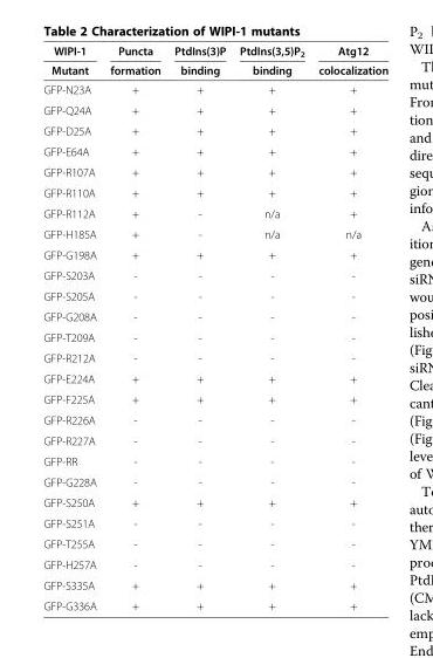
<table><thead><tr><td rowspan="2">WIPI-1 Mutant</td><td rowspan="2">Puncta formation</td><td rowspan="2">PtdIns(3)P binding</td><td rowspan="2">PtdIns(3,5)P<sub>2</sub> binding</td><td rowspan="2">Atg12 colocalization</td></tr><tr></tr></thead><tbody><tr><td>GFP-N23A</td><td>+</td><td>+</td><td>+</td><td>+</td></tr><tr><td>GFP-Q24A</td><td>+</td><td>+</td><td>+</td><td>+</td></tr><tr><td>GFP-D25A</td><td>+</td><td>+</td><td>+</td><td>+</td></tr><tr><td>GFP-E64A</td><td>+</td><td>+</td><td>+</td><td>+</td></tr><tr><td>GFP-R107A</td><td>+</td><td>+</td><td>+</td><td>+</td></tr><tr><td>GFP-R110A</td><td>+</td><td>+</td><td>+</td><td>+</td></tr><tr><td>GFP-R112A</td><td>+</td><td>-</td><td>n/a</td><td>+</td></tr><tr><td>GFP-H185A</td><td>+</td><td>-</td><td>n/a</td><td>n/a</td></tr><tr><td>GFP-G198A</td><td>+</td><td>+</td><td>+</td><td>+</td></tr><tr><td>GFP-S203A</td><td>-</td><td>-</td><td>-</td><td>-</td></tr><tr><td>GFP-S205A</td><td>-</td><td>-</td><td>-</td><td>-</td></tr><tr><td>GFP-G208A</td><td>-</td><td>-</td><td>-</td><td>-</td></tr><tr><td>GFP-T209A</td><td>-</td><td>-</td><td>-</td><td>-</td></tr><tr><td>GFP-R212A</td><td>-</td><td>-</td><td>-</td><td>-</td></tr><tr><td>GFP-E224A</td><td>+</td><td>+</td><td>+</td><td>+</td></tr><tr><td>GFP-F225A</td><td>+</td><td>+</td><td>+</td><td>+</td></tr><tr><td>GFP-R226A</td><td>-</td><td>-</td><td>-</td><td>-</td></tr><tr><td>GFP-R227A</td><td>-</td><td>-</td><td>-</td><td>-</td></tr><tr><td>GFP-RR</td><td>-</td><td>-</td><td>-</td><td>-</td></tr><tr><td>GFP-G228A</td><td>-</td><td>-</td><td>-</td><td>-</td></tr><tr><td>GFP-S250A</td><td>+</td><td>+</td><td>+</td><td>+</td></tr><tr><td>GFP-S251A</td><td>-</td><td>-</td><td>-</td><td>-</td></tr><tr><td>GFP-T255A</td><td>-</td><td>-</td><td>-</td><td>-</td></tr><tr><td>GFP-H257A</td><td>-</td><td>-</td><td>-</td><td>-</td></tr><tr><td>GFP-S335A</td><td>+</td><td>+</td><td>+</td><td>+</td></tr><tr><td>GFP-G336A</td><td>+</td><td>+</td><td>+</td><td>+</td></tr></tbody></table>